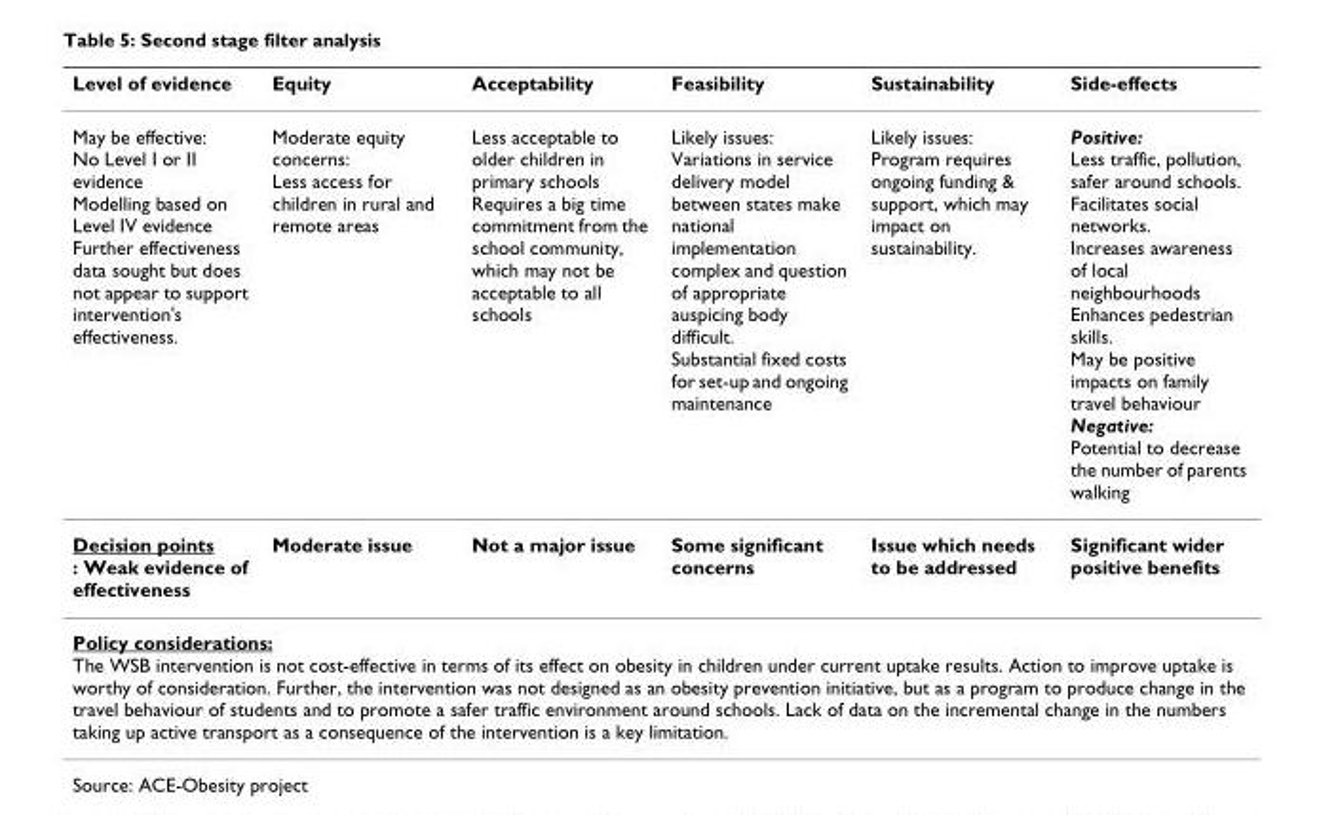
<table><thead><tr><td>Level of evidence</td><td>Equity</td><td>Acceptability</td><td>Feasibility</td><td>Sustainability</td><td>Side-effects</td></tr></thead><tbody><tr><td>May be effective: No Level I or II evidence Modelling based on Level IV evidence Further effectiveness data sought but does not appear to support intervention&#x27;s effectiveness.</td><td>Moderate equity concerns: Less access for children in rural and remote areas</td><td>Less acceptable to older children in primary schools Requires a big time commitment from the school community, which may not be acceptable to all schools</td><td>Likely issues: Variations in service delivery model between states make national implementation complex and question of appropriate auspicing body difficult. Substantial fixed costs for set-up and ongoing maintenance</td><td>Likely issues: Program requires ongoing funding &amp; support, which may impact on sustainability.</td><td>Positive: Less traffic, pollution, safer around schools. Facilitates social networks. Increases awareness of local neighbourhoods Enhances pedestrian skills. May be positive impacts on family travel behaviour Negative: Potential to decrease the number of parents walking</td></tr><tr><td>Decision points : Weak evidence of effectiveness</td><td>Moderate issue</td><td>Not a major issue</td><td>Some significant concerns</td><td>Issue which needs to be addressed</td><td>Significant wider positive benefits</td></tr><tr><td colspan="6">Policy considerations: The WSB intervention is not cost-effective in terms of its effect on obesity in children under current uptake results. Action to improve uptake is worthy of consideration. Further, the intervention was not designed as an obesity prevention initiative, but as a program to produce change in the travel behaviour of students and to promote a safer traffic environment around schools. Lack of data on the incremental change in the numbers taking up active transport as a consequence of the intervention is a key limitation.</td></tr></tbody></table>